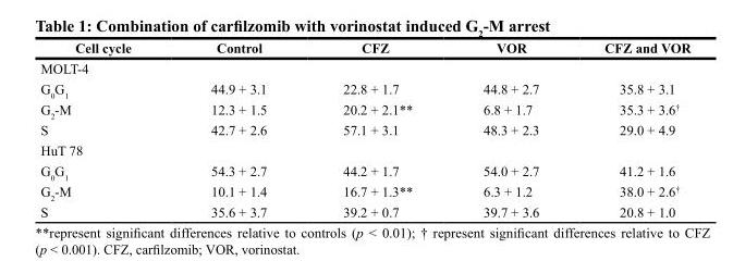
<table><thead><tr><td>Cell cycle</td><td>Control</td><td>CFZ</td><td>VOR</td><td>CFZ and VOR</td></tr></thead><tbody><tr><td colspan="5">MOLT-4</td></tr><tr><td>G<sub>0</sub>G<sub>1</sub></td><td>44.9 + 3.1</td><td>22.8 + 1.7</td><td>44.8 + 2.7</td><td>35.8 + 3.1</td></tr><tr><td>G<sub>2</sub>-M</td><td>12.3 + 1.5</td><td>20.2 + 2.1**</td><td>6.8 + 1.7</td><td>35.3 + 3.6<sup>†</sup></td></tr><tr><td>S</td><td>42.7 + 2.6</td><td>57.1 + 3.1</td><td>48.3 + 2.3</td><td>29.0 + 4.9</td></tr><tr><td colspan="5">HuT 78</td></tr><tr><td>G<sub>0</sub>G<sub>1</sub></td><td>54.3 + 2.7</td><td>44.2 + 1.7</td><td>54.0 + 2.7</td><td>41.2 + 1.6</td></tr><tr><td>G<sub>2</sub>-M</td><td>10.1 + 1.4</td><td>16.7 + 1.3**</td><td>6.3 + 1.2</td><td>38.0 + 2.6<sup>†</sup></td></tr><tr><td>S</td><td>35.6 + 3.7</td><td>39.2 + 0.7</td><td>39.7 + 3.6</td><td>20.8 + 1.0</td></tr></tbody></table>